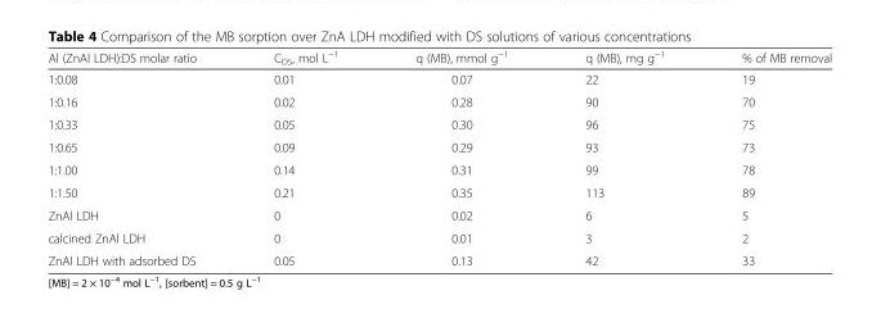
<table><thead><tr><td>Al (ZnAl LDH):DS molar ratio</td><td>C<sub>DS</sub>, mol L<sup>−1</sup></td><td>q (MB), mmol g<sup>−1</sup></td><td>q (MB), mg g<sup>−1</sup></td><td>% of MB removal</td></tr></thead><tbody><tr><td>1:0.08</td><td>0.01</td><td>0.07</td><td>22</td><td>19</td></tr><tr><td>1:0.16</td><td>0.02</td><td>0.28</td><td>90</td><td>70</td></tr><tr><td>1:0.33</td><td>0.05</td><td>0.30</td><td>96</td><td>75</td></tr><tr><td>1:0.65</td><td>0.09</td><td>0.29</td><td>93</td><td>73</td></tr><tr><td>1:1.00</td><td>0.14</td><td>0.31</td><td>99</td><td>78</td></tr><tr><td>1:1.50</td><td>0.21</td><td>0.35</td><td>113</td><td>89</td></tr><tr><td>ZnAl LDH</td><td>0</td><td>0.02</td><td>6</td><td>5</td></tr><tr><td>calcined ZnAl LDH</td><td>0</td><td>0.01</td><td>3</td><td>2</td></tr><tr><td>ZnAl LDH with adsorbed DS</td><td>0.05</td><td>0.13</td><td>42</td><td>33</td></tr></tbody></table>